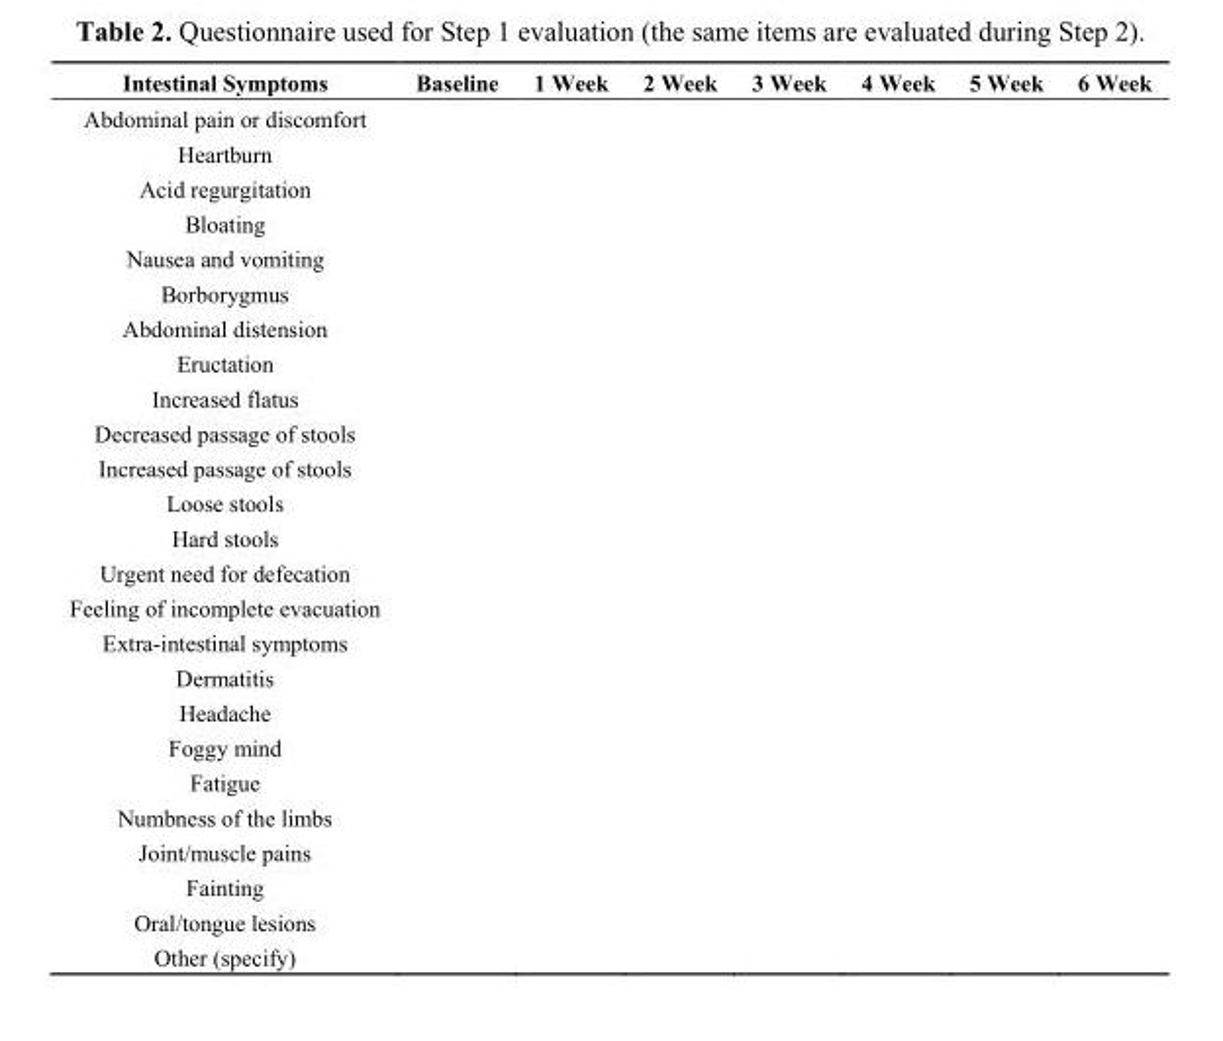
<table><thead><tr><td>Intestinal Symptoms</td><td>Baseline</td><td>1 Week</td><td>2 Week</td><td>3 Week</td><td>4 Week</td><td>5 Week</td><td>6 Week</td></tr></thead><tbody><tr><td colspan="8">Abdominal pain or discomfort</td></tr><tr><td colspan="8">Heartburn</td></tr><tr><td colspan="8">Acid regurgitation</td></tr><tr><td colspan="8">Bloating</td></tr><tr><td colspan="8">Nausea and vomiting</td></tr><tr><td colspan="8">Borborygmus</td></tr><tr><td colspan="8">Abdominal distension</td></tr><tr><td colspan="8">Eructation</td></tr><tr><td colspan="8">Increased flatus</td></tr><tr><td colspan="8">Decreased passage of stools</td></tr><tr><td colspan="8">Increased passage of stools</td></tr><tr><td colspan="8">Loose stools</td></tr><tr><td colspan="8">Hard stools</td></tr><tr><td colspan="8">Urgent need for defecation</td></tr><tr><td colspan="8">Feeling of incomplete evacuation</td></tr><tr><td colspan="8">Extra-intestinal symptoms</td></tr><tr><td colspan="8">Dermatitis</td></tr><tr><td colspan="8">Headache</td></tr><tr><td colspan="8">Foggy mind</td></tr><tr><td colspan="8">Fatigue</td></tr><tr><td colspan="8">Numbness of the limbs</td></tr><tr><td colspan="8">Joint/muscle pains</td></tr><tr><td colspan="8">Fainting</td></tr><tr><td colspan="8">Oral/tongue lesions</td></tr><tr><td>Other (specify)</td><td></td><td></td><td></td><td></td><td></td><td></td><td></td></tr></tbody></table>